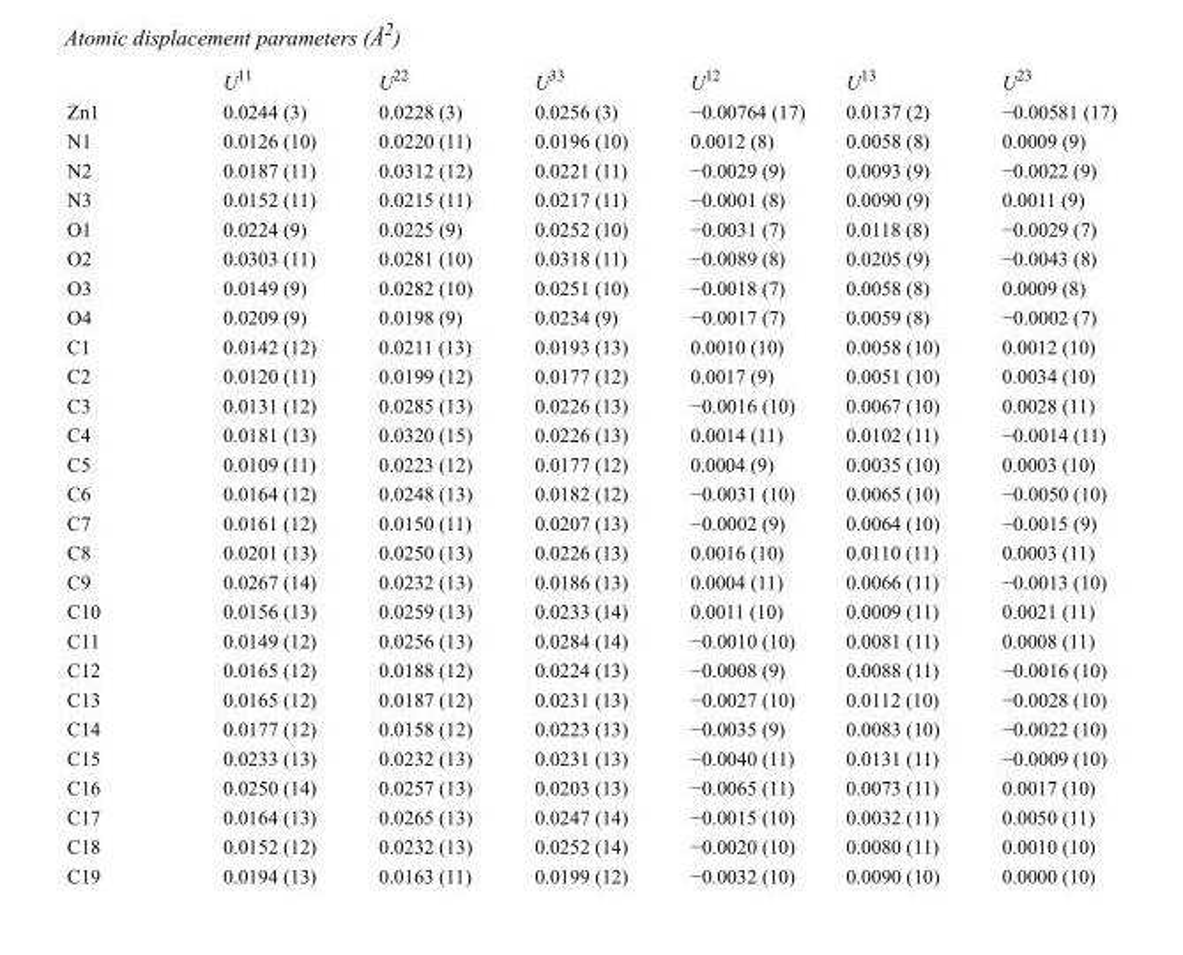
<table><thead><tr><td></td><td>U<sup>11</sup></td><td>U<sup>22</sup></td><td>U<sup>33</sup></td><td>U<sup>12</sup></td><td>U<sup>13</sup></td><td>U<sup>23</sup></td></tr></thead><tbody><tr><td>Zn1</td><td>0.0244 (3)</td><td>0.0228 (3)</td><td>0.0256 (3)</td><td>−0.00764 (17)</td><td>0.0137 (2)</td><td>−0.00581 (17)</td></tr><tr><td>N1</td><td>0.0126 (10)</td><td>0.0220 (11)</td><td>0.0196 (10)</td><td>0.0012 (8)</td><td>0.0058 (8)</td><td>0.0009 (9)</td></tr><tr><td>N2</td><td>0.0187 (11)</td><td>0.0312 (12)</td><td>0.0221 (11)</td><td>−0.0029 (9)</td><td>0.0093 (9)</td><td>−0.0022 (9)</td></tr><tr><td>N3</td><td>0.0152 (11)</td><td>0.0215 (11)</td><td>0.0217 (11)</td><td>−0.0001 (8)</td><td>0.0090 (9)</td><td>0.0011 (9)</td></tr><tr><td>O1</td><td>0.0224 (9)</td><td>0.0225 (9)</td><td>0.0252 (10)</td><td>−0.0031 (7)</td><td>0.0118 (8)</td><td>−0.0029 (7)</td></tr><tr><td>O2</td><td>0.0303 (11)</td><td>0.0281 (10)</td><td>0.0318 (11)</td><td>−0.0089 (8)</td><td>0.0205 (9)</td><td>−0.0043 (8)</td></tr><tr><td>O3</td><td>0.0149 (9)</td><td>0.0282 (10)</td><td>0.0251 (10)</td><td>−0.0018 (7)</td><td>0.0058 (8)</td><td>0.0009 (8)</td></tr><tr><td>O4</td><td>0.0209 (9)</td><td>0.0198 (9)</td><td>0.0234 (9)</td><td>−0.0017 (7)</td><td>0.0059 (8)</td><td>−0.0002 (7)</td></tr><tr><td>C1</td><td>0.0142 (12)</td><td>0.0211 (13)</td><td>0.0193 (13)</td><td>0.0010 (10)</td><td>0.0058 (10)</td><td>0.0012 (10)</td></tr><tr><td>C2</td><td>0.0120 (11)</td><td>0.0199 (12)</td><td>0.0177 (12)</td><td>0.0017 (9)</td><td>0.0051 (10)</td><td>0.0034 (10)</td></tr><tr><td>C3</td><td>0.0131 (12)</td><td>0.0285 (13)</td><td>0.0226 (13)</td><td>−0.0016 (10)</td><td>0.0067 (10)</td><td>0.0028 (11)</td></tr><tr><td>C4</td><td>0.0181 (13)</td><td>0.0320 (15)</td><td>0.0226 (13)</td><td>0.0014 (11)</td><td>0.0102 (11)</td><td>−0.0014 (11)</td></tr><tr><td>C5</td><td>0.0109 (11)</td><td>0.0223 (12)</td><td>0.0177 (12)</td><td>0.0004 (9)</td><td>0.0035 (10)</td><td>0.0003 (10)</td></tr><tr><td>C6</td><td>0.0164 (12)</td><td>0.0248 (13)</td><td>0.0182 (12)</td><td>−0.0031 (10)</td><td>0.0065 (10)</td><td>−0.0050 (10)</td></tr><tr><td>C7</td><td>0.0161 (12)</td><td>0.0150 (11)</td><td>0.0207 (13)</td><td>−0.0002 (9)</td><td>0.0064 (10)</td><td>−0.0015 (9)</td></tr><tr><td>C8</td><td>0.0201 (13)</td><td>0.0250 (13)</td><td>0.0226 (13)</td><td>0.0016 (10)</td><td>0.0110 (11)</td><td>0.0003 (11)</td></tr><tr><td>C9</td><td>0.0267 (14)</td><td>0.0232 (13)</td><td>0.0186 (13)</td><td>0.0004 (11)</td><td>0.0066 (11)</td><td>−0.0013 (10)</td></tr><tr><td>C10</td><td>0.0156 (13)</td><td>0.0259 (13)</td><td>0.0233 (14)</td><td>0.0011 (10)</td><td>0.0009 (11)</td><td>0.0021 (11)</td></tr><tr><td>C11</td><td>0.0149 (12)</td><td>0.0256 (13)</td><td>0.0284 (14)</td><td>−0.0010 (10)</td><td>0.0081 (11)</td><td>0.0008 (11)</td></tr><tr><td>C12</td><td>0.0165 (12)</td><td>0.0188 (12)</td><td>0.0224 (13)</td><td>−0.0008 (9)</td><td>0.0088 (11)</td><td>−0.0016 (10)</td></tr><tr><td>C13</td><td>0.0165 (12)</td><td>0.0187 (12)</td><td>0.0231 (13)</td><td>−0.0027 (10)</td><td>0.0112 (10)</td><td>−0.0028 (10)</td></tr><tr><td>C14</td><td>0.0177 (12)</td><td>0.0158 (12)</td><td>0.0223 (13)</td><td>−0.0035 (9)</td><td>0.0083 (10)</td><td>−0.0022 (10)</td></tr><tr><td>C15</td><td>0.0233 (13)</td><td>0.0232 (13)</td><td>0.0231 (13)</td><td>−0.0040 (11)</td><td>0.0131 (11)</td><td>−0.0009 (10)</td></tr><tr><td>C16</td><td>0.0250 (14)</td><td>0.0257 (13)</td><td>0.0203 (13)</td><td>−0.0065 (11)</td><td>0.0073 (11)</td><td>0.0017 (10)</td></tr><tr><td>C17</td><td>0.0164 (13)</td><td>0.0265 (13)</td><td>0.0247 (14)</td><td>−0.0015 (10)</td><td>0.0032 (11)</td><td>0.0050 (11)</td></tr><tr><td>C18</td><td>0.0152 (12)</td><td>0.0232 (13)</td><td>0.0252 (14)</td><td>−0.0020 (10)</td><td>0.0080 (11)</td><td>0.0010 (10)</td></tr><tr><td>C19</td><td>0.0194 (13)</td><td>0.0163 (11)</td><td>0.0199 (12)</td><td>−0.0032 (10)</td><td>0.0090 (10)</td><td>0.0000 (10)</td></tr></tbody></table>